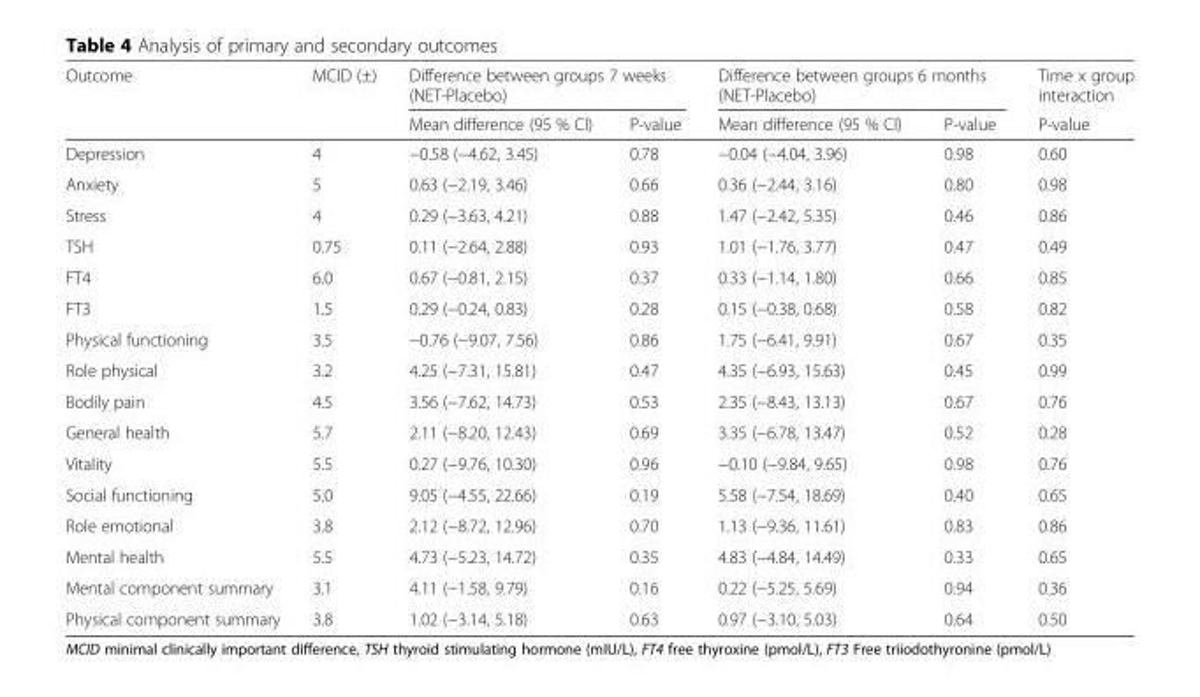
<table><thead><tr><td rowspan="2">Outcome</td><td rowspan="2">MCID (±)</td><td colspan="2">Difference between groups 7 weeks (NET-Placebo)</td><td colspan="2">Difference between groups 6 months (NET-Placebo)</td><td rowspan="2">Time x group interaction P-value</td></tr><tr><td>Mean difference (95 % CI)</td><td>P-value</td><td>Mean difference (95 % CI)</td><td>P-value</td></tr></thead><tbody><tr><td>Depression</td><td>4</td><td>−0.58 (−4.62, 3.45)</td><td>0.78</td><td>−0.04 (−4.04, 3.96)</td><td>0.98</td><td>0.60</td></tr><tr><td>Anxiety</td><td>5</td><td>0.63 (−2.19, 3.46)</td><td>0.66</td><td>0.36 (−2.44, 3.16)</td><td>0.80</td><td>0.98</td></tr><tr><td>Stress</td><td>4</td><td>0.29 (−3.63, 4.21)</td><td>0.88</td><td>1.47 (−2.42, 5.35)</td><td>0.46</td><td>0.86</td></tr><tr><td>TSH</td><td>0.75</td><td>0.11 (−2.64, 2.88)</td><td>0.93</td><td>1.01 (−1.76, 3.77)</td><td>0.47</td><td>0.49</td></tr><tr><td>FT4</td><td>6.0</td><td>0.67 (−0.81, 2.15)</td><td>0.37</td><td>0.33 (−1.14, 1.80)</td><td>0.66</td><td>0.85</td></tr><tr><td>FT3</td><td>1.5</td><td>0.29 (−0.24, 0.83)</td><td>0.28</td><td>0.15 (−0.38, 0.68)</td><td>0.58</td><td>0.82</td></tr><tr><td>Physical functioning</td><td>3.5</td><td>−0.76 (−9.07, 7.56)</td><td>0.86</td><td>1.75 (−6.41, 9.91)</td><td>0.67</td><td>0.35</td></tr><tr><td>Role physical</td><td>3.2</td><td>4.25 (−7.31, 15.81)</td><td>0.47</td><td>4.35 (−6.93, 15.63)</td><td>0.45</td><td>0.99</td></tr><tr><td>Bodily pain</td><td>4.5</td><td>3.56 (−7.62, 14.73)</td><td>0.53</td><td>2.35 (−8.43, 13.13)</td><td>0.67</td><td>0.76</td></tr><tr><td>General health</td><td>5.7</td><td>2.11 (−8.20, 12.43)</td><td>0.69</td><td>3.35 (−6.78, 13.47)</td><td>0.52</td><td>0.28</td></tr><tr><td>Vitality</td><td>5.5</td><td>0.27 (−9.76, 10.30)</td><td>0.96</td><td>−0.10 (−9.84, 9.65)</td><td>0.98</td><td>0.76</td></tr><tr><td>Social functioning</td><td>5.0</td><td>9.05 (−4.55, 22.66)</td><td>0.19</td><td>5.58 (−7.54, 18.69)</td><td>0.40</td><td>0.65</td></tr><tr><td>Role emotional</td><td>3.8</td><td>2.12 (−8.72, 12.96)</td><td>0.70</td><td>1.13 (−9.36, 11.61)</td><td>0.83</td><td>0.86</td></tr><tr><td>Mental health</td><td>5.5</td><td>4.73 (−5.23, 14.72)</td><td>0.35</td><td>4.83 (−4.84, 14.49)</td><td>0.33</td><td>0.65</td></tr><tr><td>Mental component summary</td><td>3.1</td><td>4.11 (−1.58, 9.79)</td><td>0.16</td><td>0.22 (−5.25, 5.69)</td><td>0.94</td><td>0.36</td></tr><tr><td>Physical component summary</td><td>3.8</td><td>1.02 (−3.14, 5.18)</td><td>0.63</td><td>0.97 (−3.10, 5.03)</td><td>0.64</td><td>0.50</td></tr></tbody></table>